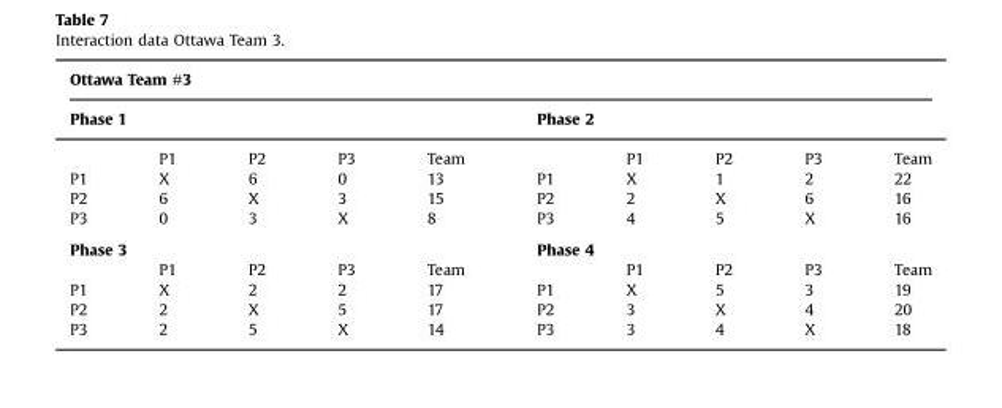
<table><thead><tr><td colspan="10">Ottawa Team #3</td></tr><tr><td colspan="5">Phase 1</td><td colspan="5">Phase 2</td></tr><tr><td></td><td>P1</td><td>P2</td><td>P3</td><td>Team</td><td></td><td>P1</td><td>P2</td><td>P3</td><td>Team</td></tr></thead><tbody><tr><td>P1</td><td>X</td><td>6</td><td>0</td><td>13</td><td>P1</td><td>X</td><td>1</td><td>2</td><td>22</td></tr><tr><td>P2</td><td>6</td><td>X</td><td>3</td><td>15</td><td>P2</td><td>2</td><td>X</td><td>6</td><td>16</td></tr><tr><td>P3</td><td>0</td><td>3</td><td>X</td><td>8</td><td>P3</td><td>4</td><td>5</td><td>X</td><td>16</td></tr><tr><td colspan="5">Phase 3</td><td colspan="5">Phase 4</td></tr><tr><td></td><td>P1</td><td>P2</td><td>P3</td><td>Team</td><td></td><td>P1</td><td>P2</td><td>P3</td><td>Team</td></tr><tr><td>P1</td><td>X</td><td>2</td><td>2</td><td>17</td><td>P1</td><td>X</td><td>5</td><td>3</td><td>19</td></tr><tr><td>P2</td><td>2</td><td>X</td><td>5</td><td>17</td><td>P2</td><td>3</td><td>X</td><td>4</td><td>20</td></tr><tr><td>P3</td><td>2</td><td>5</td><td>X</td><td>14</td><td>P3</td><td>3</td><td>4</td><td>X</td><td>18</td></tr></tbody></table>